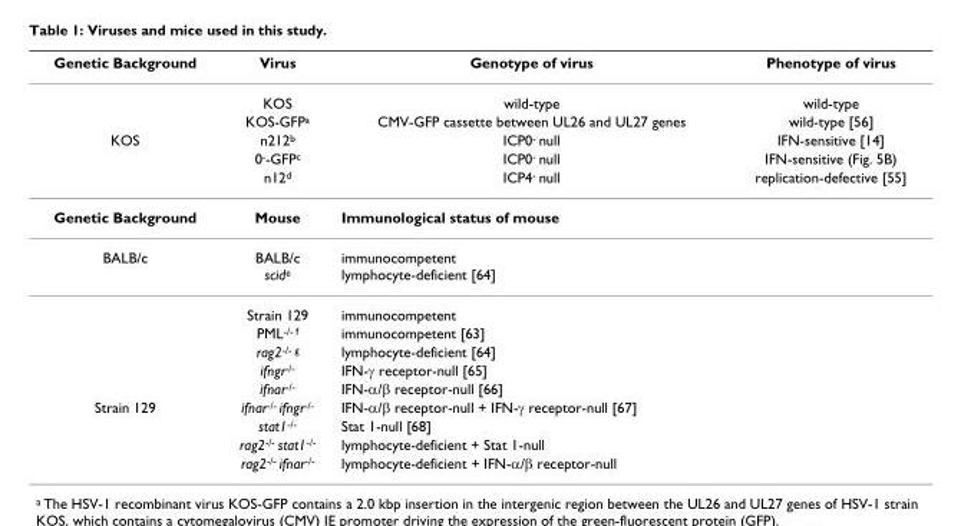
<table><thead><tr><td>Genetic Background</td><td>Virus</td><td>Genotype of virus</td><td>Phenotype of virus</td></tr></thead><tbody><tr><td></td><td>KOS</td><td>wild-type</td><td>wild-type</td></tr><tr><td></td><td>KOS-GFP<sup>a</sup></td><td>CMV-GFP cassette between UL26 and UL27 genes</td><td>wild-type [56]</td></tr><tr><td rowspan="3">KOS</td><td>n212<sup>b</sup></td><td>ICP0<sup>-</sup> null</td><td>IFN-sensitive [14]</td></tr><tr><td>0<sup>-</sup>-GFP<sup>c</sup></td><td>ICP0<sup>-</sup> null</td><td>IFN-sensitive (Fig. 5B)</td></tr><tr><td>n12<sup>d</sup></td><td>ICP4<sup>-</sup> null</td><td>replication-defective [55]</td></tr><tr><td>Genetic Background</td><td>Mouse</td><td colspan="2">Immunological status of mouse</td></tr><tr><td rowspan="6">BALB/c</td><td>BALB/c scid<sup>e</sup></td><td colspan="2">immunocompetent lymphocyte-deficient [64]</td></tr><tr><td>Strain 129</td><td colspan="2">immunocompetent</td></tr><tr><td>PML<sup>-/- f</sup></td><td colspan="2">immunocompetent [63]</td></tr><tr><td>rag2<sup>-/- g</sup></td><td colspan="2">lymphocyte-deficient [64]</td></tr><tr><td>ifngr<sup>-/-</sup></td><td colspan="2">IFN-γ receptor-null [65]</td></tr><tr><td>ifnar<sup>-/-</sup></td><td colspan="2">IFN-α/β receptor-null [66]</td></tr><tr><td rowspan="4">Strain 129</td><td>ifnar<sup>-/-</sup> ifngr<sup>-/-</sup></td><td colspan="2">IFN-α/β receptor-null + IFN-γ receptor-null [67]</td></tr><tr><td>stat1<sup>-/-</sup></td><td colspan="2">Stat 1-null [68]</td></tr><tr><td>rag2<sup>-/-</sup> stat1<sup>-/-</sup></td><td colspan="2">lymphocyte-deficient + Stat 1-null</td></tr><tr><td>rag2<sup>-/-</sup> ifnar<sup>-/-</sup></td><td colspan="2">lymphocyte-deficient + IFN-α/β receptor-null</td></tr></tbody></table>